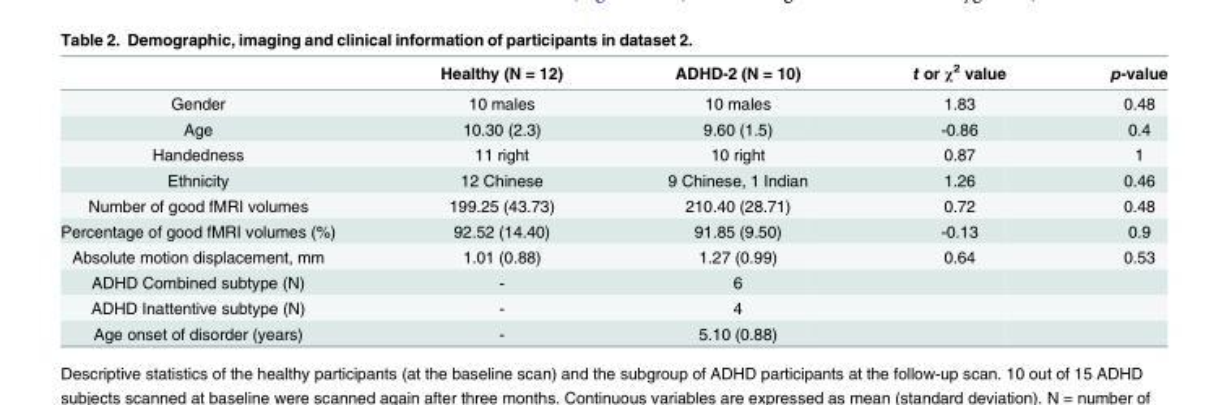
<table><thead><tr><td></td><td>Healthy (N = 12)</td><td>ADHD-2 (N = 10)</td><td>t or χ<sup>2</sup> value</td><td>p-value</td></tr></thead><tbody><tr><td>Gender</td><td>10 males</td><td>10 males</td><td>1.83</td><td>0.48</td></tr><tr><td>Age</td><td>10.30 (2.3)</td><td>9.60 (1.5)</td><td>-0.86</td><td>0.4</td></tr><tr><td>Handedness</td><td>11 right</td><td>10 right</td><td>0.87</td><td>1</td></tr><tr><td>Ethnicity</td><td>12 Chinese</td><td>9 Chinese, 1 Indian</td><td>1.26</td><td>0.46</td></tr><tr><td>Number of good fMRI volumes</td><td>199.25 (43.73)</td><td>210.40 (28.71)</td><td>0.72</td><td>0.48</td></tr><tr><td>Percentage of good fMRI volumes (%)</td><td>92.52 (14.40)</td><td>91.85 (9.50)</td><td>-0.13</td><td>0.9</td></tr><tr><td>Absolute motion displacement, mm</td><td>1.01 (0.88)</td><td>1.27 (0.99)</td><td>0.64</td><td>0.53</td></tr><tr><td>ADHD Combined subtype (N)</td><td>-</td><td>6</td><td></td><td></td></tr><tr><td>ADHD Inattentive subtype (N)</td><td>-</td><td>4</td><td></td><td></td></tr><tr><td>Age onset of disorder (years)</td><td>-</td><td>5.10 (0.88)</td><td></td><td></td></tr></tbody></table>